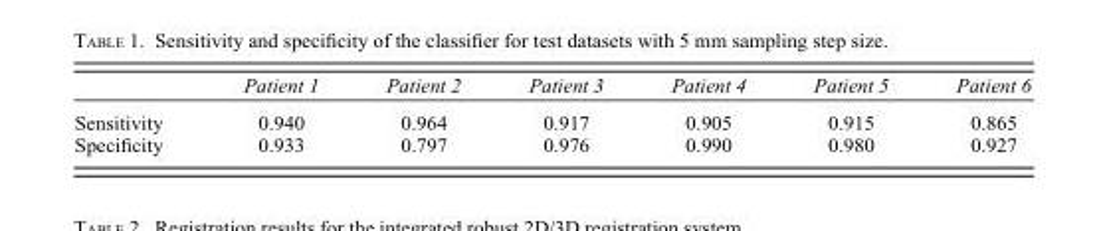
<table><thead><tr><td></td><td>Patient 1</td><td>Patient 2</td><td>Patient 3</td><td>Patient 4</td><td>Patient 5</td><td>Patient 6</td></tr></thead><tbody><tr><td>Sensitivity</td><td>0.940</td><td>0.964</td><td>0.917</td><td>0.905</td><td>0.915</td><td>0.865</td></tr><tr><td>Specificity</td><td>0.933</td><td>0.797</td><td>0.976</td><td>0.990</td><td>0.980</td><td>0.927</td></tr></tbody></table>